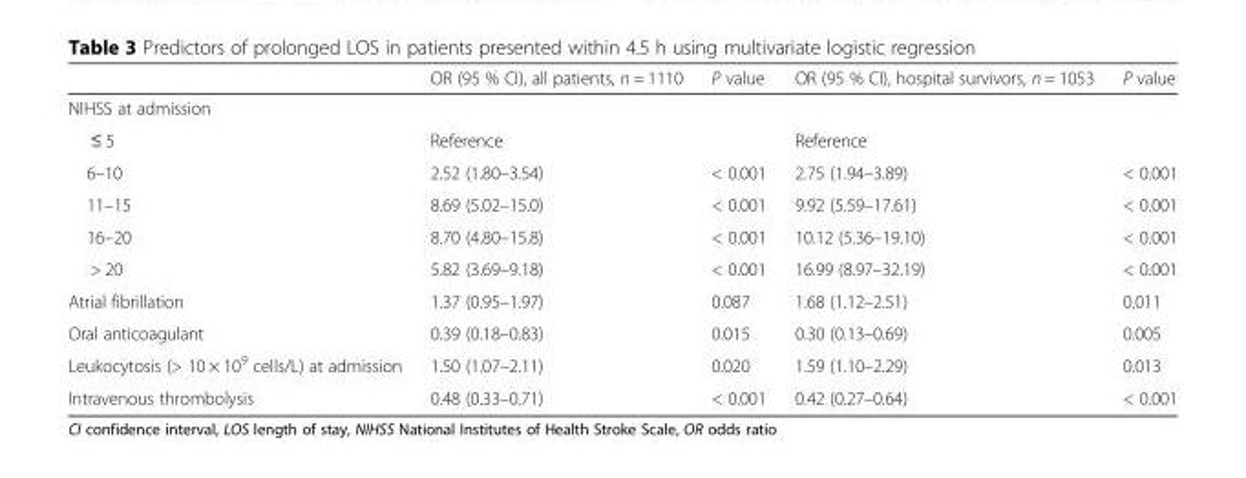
<table><thead><tr><td></td><td>OR (95 % CI), all patients, n = 1110</td><td>P value</td><td>OR (95 % CI), hospital survivors, n = 1053</td><td>P value</td></tr></thead><tbody><tr><td colspan="5">NIHSS at admission</td></tr><tr><td>≤ 5</td><td>Reference</td><td></td><td>Reference</td><td></td></tr><tr><td>6–10</td><td>2.52 (1.80–3.54)</td><td>&lt; 0.001</td><td>2.75 (1.94–3.89)</td><td>&lt; 0.001</td></tr><tr><td>11–15</td><td>8.69 (5.02–15.0)</td><td>&lt; 0.001</td><td>9.92 (5.59–17.61)</td><td>&lt; 0.001</td></tr><tr><td>16–20</td><td>8.70 (4.80–15.8)</td><td>&lt; 0.001</td><td>10.12 (5.36–19.10)</td><td>&lt; 0.001</td></tr><tr><td>&gt; 20</td><td>5.82 (3.69–9.18)</td><td>&lt; 0.001</td><td>16.99 (8.97–32.19)</td><td>&lt; 0.001</td></tr><tr><td>Atrial fibrillation</td><td>1.37 (0.95–1.97)</td><td>0.087</td><td>1.68 (1.12–2.51)</td><td>0.011</td></tr><tr><td>Oral anticoagulant</td><td>0.39 (0.18–0.83)</td><td>0.015</td><td>0.30 (0.13–0.69)</td><td>0.005</td></tr><tr><td>Leukocytosis (&gt; 10 × 10<sup>9</sup> cells/L) at admission</td><td>1.50 (1.07–2.11)</td><td>0.020</td><td>1.59 (1.10–2.29)</td><td>0.013</td></tr><tr><td>Intravenous thrombolysis</td><td>0.48 (0.33–0.71)</td><td>&lt; 0.001</td><td>0.42 (0.27–0.64)</td><td>&lt; 0.001</td></tr></tbody></table>